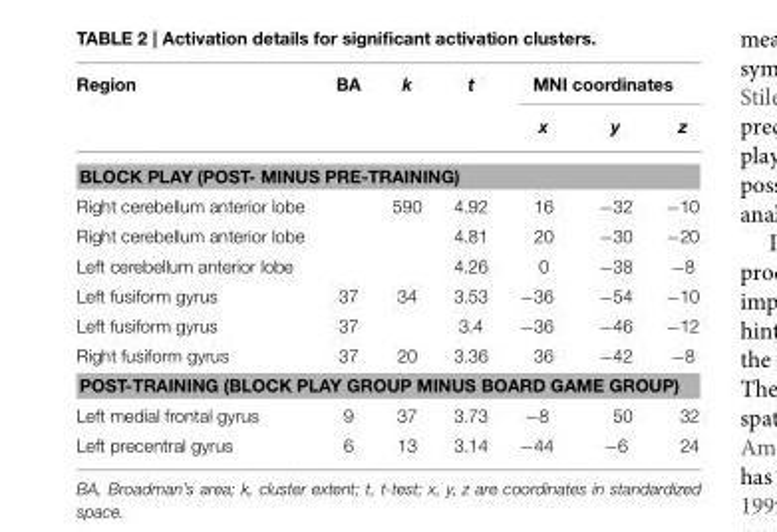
<table><thead><tr><td rowspan="2">Region</td><td rowspan="2">BA</td><td rowspan="2">k</td><td rowspan="2">t</td><td colspan="3">MNI coordinates</td></tr><tr><td>x</td><td>y</td><td>z</td></tr></thead><tbody><tr><td colspan="7">BLOCK PLAY (POST- MINUS PRE-TRAINING)</td></tr><tr><td>Right cerebellum anterior lobe</td><td></td><td>590</td><td>4.92</td><td>16</td><td>−32</td><td>−10</td></tr><tr><td>Right cerebellum anterior lobe</td><td></td><td></td><td>4.81</td><td>20</td><td>−30</td><td>−20</td></tr><tr><td>Left cerebellum anterior lobe</td><td></td><td></td><td>4.26</td><td>0</td><td>−38</td><td>−8</td></tr><tr><td>Left fusiform gyrus</td><td>37</td><td>34</td><td>3.53</td><td>−36</td><td>−54</td><td>−10</td></tr><tr><td>Left fusiform gyrus</td><td>37</td><td></td><td>3.4</td><td>−36</td><td>−46</td><td>−12</td></tr><tr><td>Right fusiform gyrus</td><td>37</td><td>20</td><td>3.36</td><td>36</td><td>−42</td><td>−8</td></tr><tr><td colspan="7">POST-TRAINING (BLOCK PLAY GROUP MINUS BOARD GAME GROUP)</td></tr><tr><td>Left medial frontal gyrus</td><td>9</td><td>37</td><td>3.73</td><td>−8</td><td>50</td><td>32</td></tr><tr><td>Left precentral gyrus</td><td>6</td><td>13</td><td>3.14</td><td>−44</td><td>−6</td><td>24</td></tr></tbody></table>